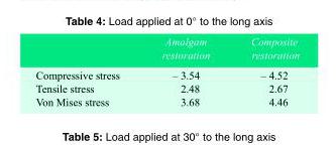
<table><thead><tr><td></td><td>Amalgam restoration</td><td>Composite restoration</td></tr></thead><tbody><tr><td>Compressive stress</td><td>– 3.54</td><td>– 4.52</td></tr><tr><td>Tensile stress</td><td>2.48</td><td>2.67</td></tr><tr><td>Von Mises stress</td><td>3.68</td><td>4.46</td></tr></tbody></table>